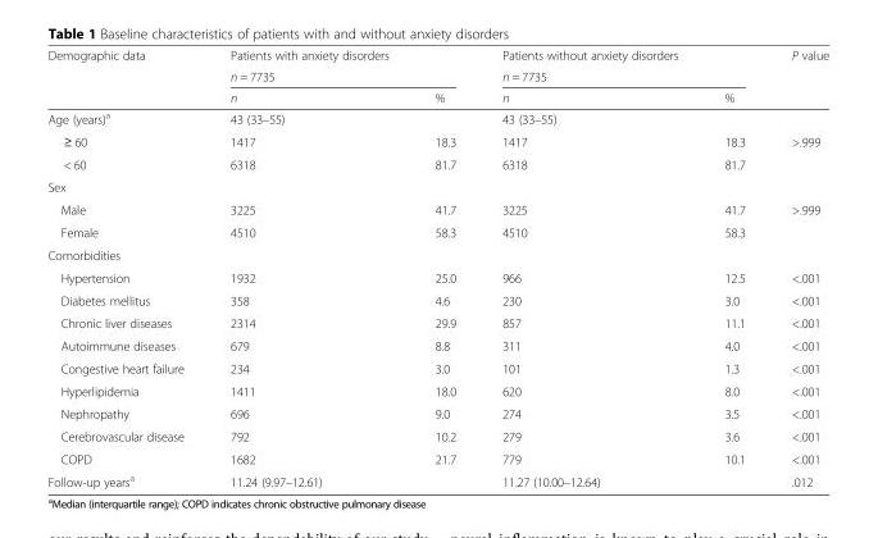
<table><thead><tr><td rowspan="3">Demographic data</td><td>Patients with anxiety disorders</td><td></td><td>Patients without anxiety disorders</td><td></td><td rowspan="3">P value</td></tr><tr><td colspan="2">n = 7735</td><td colspan="2">n = 7735</td></tr><tr><td>n</td><td>%</td><td>n</td><td>%</td></tr></thead><tbody><tr><td>Age (years)<sup>a</sup></td><td>43 (33–55)</td><td></td><td>43 (33–55)</td><td></td><td></td></tr><tr><td>≥ 60</td><td>1417</td><td>18.3</td><td>1417</td><td>18.3</td><td>&gt;.999</td></tr><tr><td>&lt; 60</td><td>6318</td><td>81.7</td><td>6318</td><td>81.7</td><td></td></tr><tr><td colspan="6">Sex</td></tr><tr><td>Male</td><td>3225</td><td>41.7</td><td>3225</td><td>41.7</td><td>&gt;.999</td></tr><tr><td>Female</td><td>4510</td><td>58.3</td><td>4510</td><td>58.3</td><td></td></tr><tr><td colspan="6">Comorbidities</td></tr><tr><td>Hypertension</td><td>1932</td><td>25.0</td><td>966</td><td>12.5</td><td>&lt;.001</td></tr><tr><td>Diabetes mellitus</td><td>358</td><td>4.6</td><td>230</td><td>3.0</td><td>&lt;.001</td></tr><tr><td>Chronic liver diseases</td><td>2314</td><td>29.9</td><td>857</td><td>11.1</td><td>&lt;.001</td></tr><tr><td>Autoimmune diseases</td><td>679</td><td>8.8</td><td>311</td><td>4.0</td><td>&lt;.001</td></tr><tr><td>Congestive heart failure</td><td>234</td><td>3.0</td><td>101</td><td>1.3</td><td>&lt;.001</td></tr><tr><td>Hyperlipidemia</td><td>1411</td><td>18.0</td><td>620</td><td>8.0</td><td>&lt;.001</td></tr><tr><td>Nephropathy</td><td>696</td><td>9.0</td><td>274</td><td>3.5</td><td>&lt;.001</td></tr><tr><td>Cerebrovascular disease</td><td>792</td><td>10.2</td><td>279</td><td>3.6</td><td>&lt;.001</td></tr><tr><td>COPD</td><td>1682</td><td>21.7</td><td>779</td><td>10.1</td><td>&lt;.001</td></tr><tr><td>Follow-up years<sup>a</sup></td><td>11.24 (9.97–12.61)</td><td></td><td>11.27 (10.00–12.64)</td><td></td><td>.012</td></tr></tbody></table>